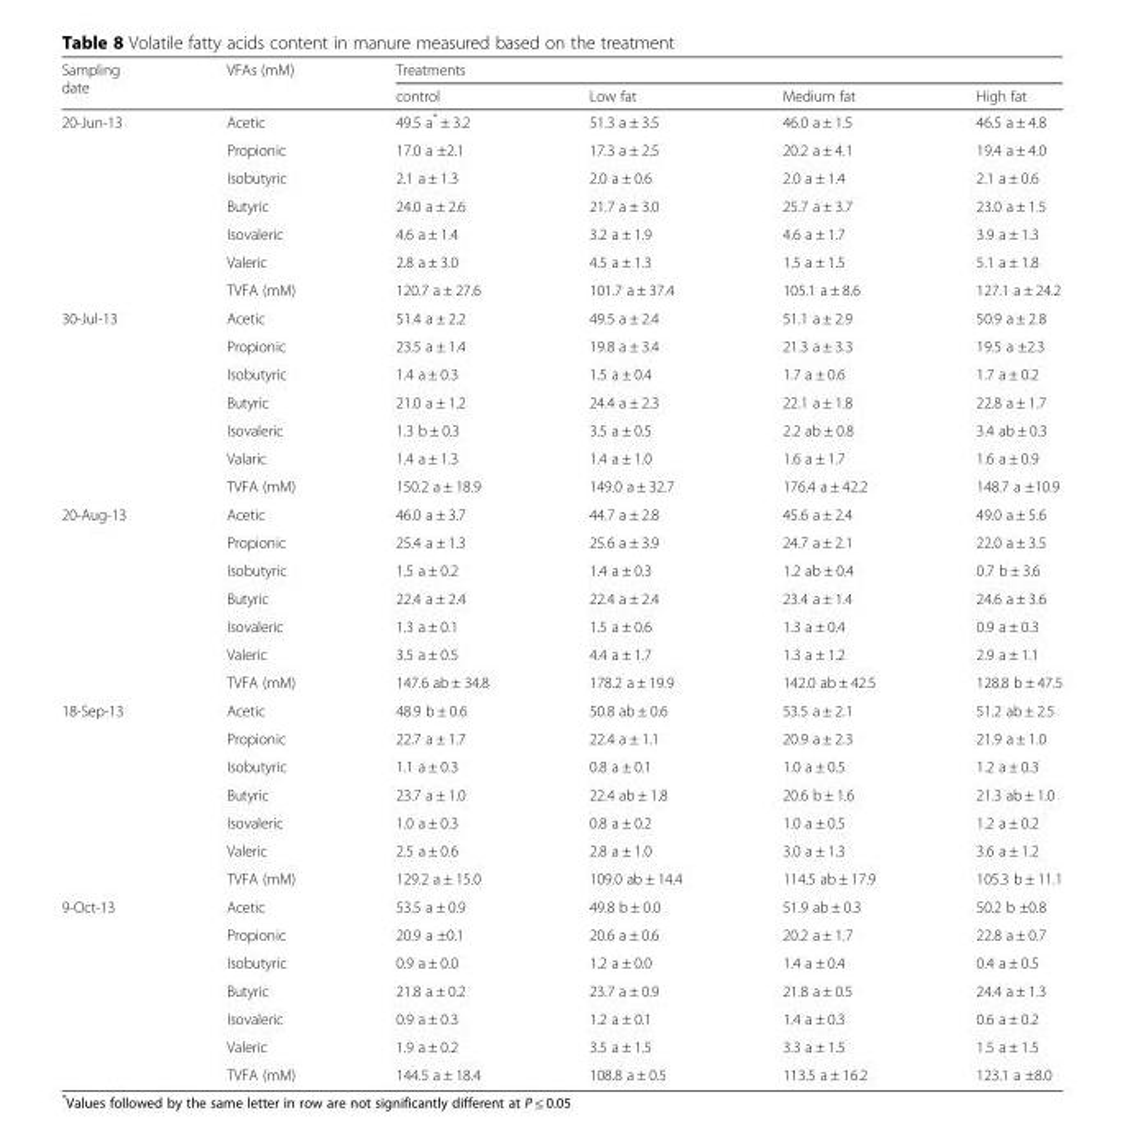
<table><thead><tr><td rowspan="2">Sampling date</td><td rowspan="2">VFAs (mM)</td><td colspan="4">Treatments</td></tr><tr><td>control</td><td>Low fat</td><td>Medium fat</td><td>High fat</td></tr></thead><tbody><tr><td rowspan="7">20-Jun-13</td><td>Acetic</td><td>49.5 a* ± 3.2</td><td>51.3 a ± 3.5</td><td>46.0 a ± 1.5</td><td>46.5 a ± 4.8</td></tr><tr><td>Propionic</td><td>17.0 a ±2.1</td><td>17.3 a ± 2.5</td><td>20.2 a ± 4.1</td><td>19.4 a ± 4.0</td></tr><tr><td>Isobutyric</td><td>2.1 a ± 1.3</td><td>2.0 a ± 0.6</td><td>2.0 a ± 1.4</td><td>2.1 a ± 0.6</td></tr><tr><td>Butyric</td><td>24.0 a ± 2.6</td><td>21.7 a ± 3.0</td><td>25.7 a ± 3.7</td><td>23.0 a ± 1.5</td></tr><tr><td>Isovaleric</td><td>4.6 a ± 1.4</td><td>3.2 a ± 1.9</td><td>4.6 a ± 1.7</td><td>3.9 a ± 1.3</td></tr><tr><td>Valeric</td><td>2.8 a ± 3.0</td><td>4.5 a ± 1.3</td><td>1.5 a ± 1.5</td><td>5.1 a ± 1.8</td></tr><tr><td>TVFA (mM)</td><td>120.7 a ± 27.6</td><td>101.7 a ± 37.4</td><td>105.1 a ± 8.6</td><td>127.1 a ± 24.2</td></tr><tr><td rowspan="7">30-Jul-13</td><td>Acetic</td><td>51.4 a ± 2.2</td><td>49.5 a ± 2.4</td><td>51.1 a ± 2.9</td><td>50.9 a ± 2.8</td></tr><tr><td>Propionic</td><td>23.5 a ± 1.4</td><td>19.8 a ± 3.4</td><td>21.3 a ± 3.3</td><td>19.5 a ±2.3</td></tr><tr><td>Isobutyric</td><td>1.4 a ± 0.3</td><td>1.5 a ± 0.4</td><td>1.7 a ± 0.6</td><td>1.7 a ± 0.2</td></tr><tr><td>Butyric</td><td>21.0 a ± 1.2</td><td>24.4 a ± 2.3</td><td>22.1 a ± 1.8</td><td>22.8 a ± 1.7</td></tr><tr><td>Isovaleric</td><td>1.3 b ± 0.3</td><td>3.5 a ± 0.5</td><td>2.2 ab ± 0.8</td><td>3.4 ab ± 0.3</td></tr><tr><td>Valaric</td><td>1.4 a ± 1.3</td><td>1.4 a ± 1.0</td><td>1.6 a ± 1.7</td><td>1.6 a ± 0.9</td></tr><tr><td>TVFA (mM)</td><td>150.2 a ± 18.9</td><td>149.0 a ± 32.7</td><td>176.4 a ± 42.2</td><td>148.7 a ±10.9</td></tr><tr><td rowspan="7">20-Aug-13</td><td>Acetic</td><td>46.0 a ± 3.7</td><td>44.7 a ± 2.8</td><td>45.6 a ± 2.4</td><td>49.0 a ± 5.6</td></tr><tr><td>Propionic</td><td>25.4 a ± 1.3</td><td>25.6 a ± 3.9</td><td>24.7 a ± 2.1</td><td>22.0 a ± 3.5</td></tr><tr><td>Isobutyric</td><td>1.5 a ± 0.2</td><td>1.4 a ± 0.3</td><td>1.2 ab ± 0.4</td><td>0.7 b ± 3.6</td></tr><tr><td>Butyric</td><td>22.4 a ± 2.4</td><td>22.4 a ± 2.4</td><td>23.4 a ± 1.4</td><td>24.6 a ± 3.6</td></tr><tr><td>Isovaleric</td><td>1.3 a ± 0.1</td><td>1.5 a ± 0.6</td><td>1.3 a ± 0.4</td><td>0.9 a ± 0.3</td></tr><tr><td>Valeric</td><td>3.5 a ± 0.5</td><td>4.4 a ± 1.7</td><td>1.3 a ± 1.2</td><td>2.9 a ± 1.1</td></tr><tr><td>TVFA (mM)</td><td>147.6 ab ± 34.8</td><td>178.2 a ± 19.9</td><td>142.0 ab ± 42.5</td><td>128.8 b ± 47.5</td></tr><tr><td rowspan="7">18-Sep-13</td><td>Acetic</td><td>48.9 b ± 0.6</td><td>50.8 ab ± 0.6</td><td>53.5 a ± 2.1</td><td>51.2 ab ± 2.5</td></tr><tr><td>Propionic</td><td>22.7 a ± 1.7</td><td>22.4 a ± 1.1</td><td>20.9 a ± 2.3</td><td>21.9 a ± 1.0</td></tr><tr><td>Isobutyric</td><td>1.1 a ± 0.3</td><td>0.8 a ± 0.1</td><td>1.0 a ± 0.5</td><td>1.2 a ± 0.3</td></tr><tr><td>Butyric</td><td>23.7 a ± 1.0</td><td>22.4 ab ± 1.8</td><td>20.6 b ± 1.6</td><td>21.3 ab ± 1.0</td></tr><tr><td>Isovaleric</td><td>1.0 a ± 0.3</td><td>0.8 a ± 0.2</td><td>1.0 a ± 0.5</td><td>1.2 a ± 0.2</td></tr><tr><td>Valeric</td><td>2.5 a ± 0.6</td><td>2.8 a ± 1.0</td><td>3.0 a ± 1.3</td><td>3.6 a ± 1.2</td></tr><tr><td>TVFA (mM)</td><td>129.2 a ± 15.0</td><td>109.0 ab ± 14.4</td><td>114.5 ab ± 17.9</td><td>105.3 b ± 11.1</td></tr><tr><td rowspan="7">9-Oct-13</td><td>Acetic</td><td>53.5 a ± 0.9</td><td>49.8 b ± 0.0</td><td>51.9 ab ± 0.3</td><td>50.2 b ±0.8</td></tr><tr><td>Propionic</td><td>20.9 a ±0.1</td><td>20.6 a ± 0.6</td><td>20.2 a ± 1.7</td><td>22.8 a ± 0.7</td></tr><tr><td>Isobutyric</td><td>0.9 a ± 0.0</td><td>1.2 a ± 0.0</td><td>1.4 a ± 0.4</td><td>0.4 a ± 0.5</td></tr><tr><td>Butyric</td><td>21.8 a ± 0.2</td><td>23.7 a ± 0.9</td><td>21.8 a ± 0.5</td><td>24.4 a ± 1.3</td></tr><tr><td>Isovaleric</td><td>0.9 a ± 0.3</td><td>1.2 a ± 0.1</td><td>1.4 a ± 0.3</td><td>0.6 a ± 0.2</td></tr><tr><td>Valeric</td><td>1.9 a ± 0.2</td><td>3.5 a ± 1.5</td><td>3.3 a ± 1.5</td><td>1.5 a ± 1.5</td></tr><tr><td>TVFA (mM)</td><td>144.5 a ± 18.4</td><td>108.8 a ± 0.5</td><td>113.5 a ± 16.2</td><td>123.1 a ±8.0</td></tr></tbody></table>